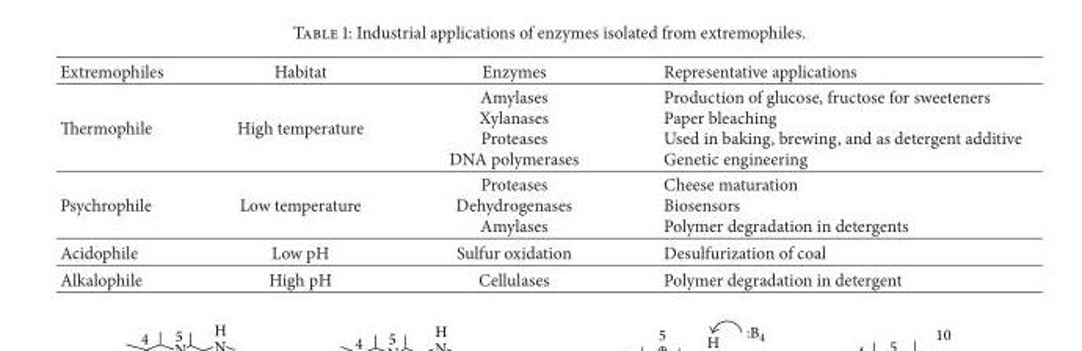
<table><thead><tr><td>Extremophiles</td><td>Habitat</td><td>Enzymes</td><td>Representative applications</td></tr></thead><tbody><tr><td>Thermophile</td><td>High temperature</td><td>Amylases Xylanases Proteases DNA polymerases</td><td>Production of glucose, fructose for sweeteners Paper bleaching Used in baking, brewing, and as detergent additive Genetic engineering</td></tr><tr><td>Psychrophile</td><td>Low temperature</td><td>Proteases Dehydrogenases Amylases</td><td>Cheese maturation Biosensors Polymer degradation in detergents</td></tr><tr><td>Acidophile</td><td>Low pH</td><td>Sulfur oxidation</td><td>Desulfurization of coal</td></tr><tr><td>Alkalophile</td><td>High pH</td><td>Cellulases</td><td>Polymer degradation in detergent</td></tr></tbody></table>